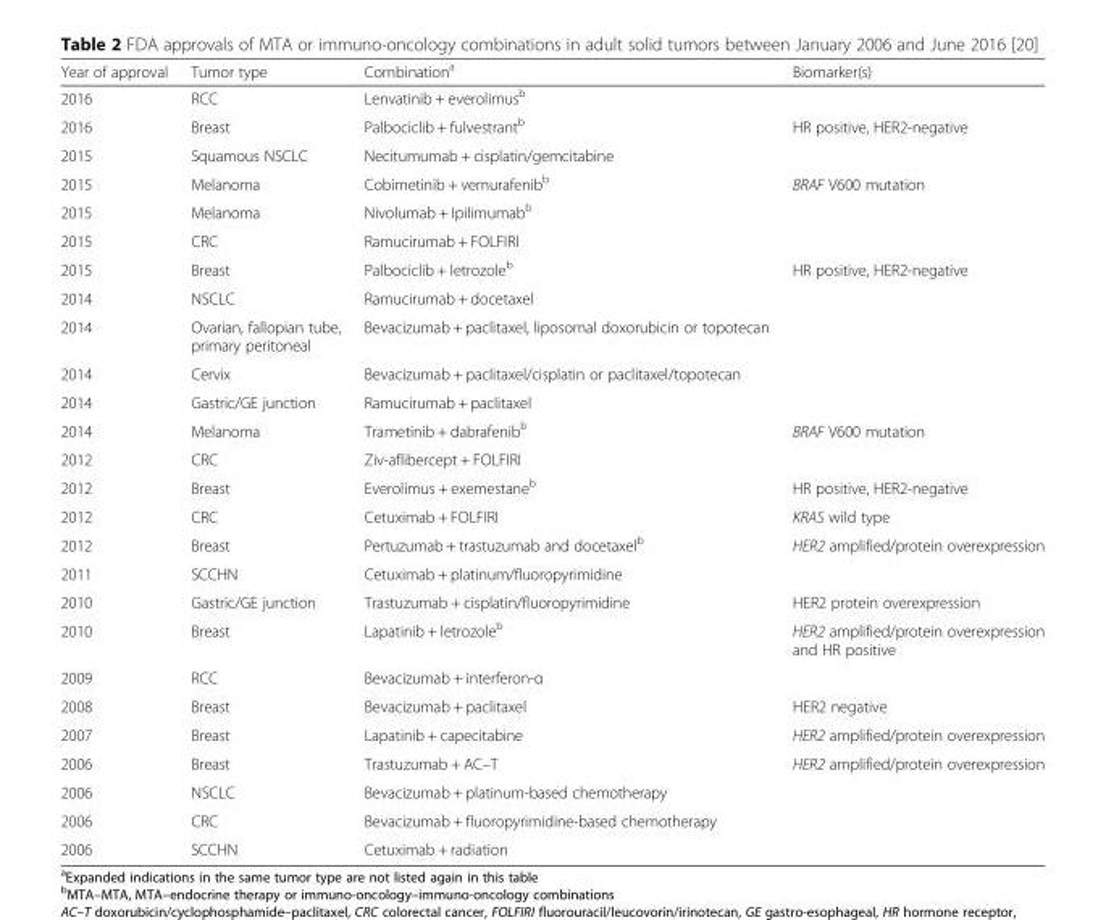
<table><thead><tr><td>Year of approval</td><td>Tumor type</td><td>Combination<sup>a</sup></td><td>Biomarker(s)</td></tr></thead><tbody><tr><td>2016</td><td>RCC</td><td>Lenvatinib + everolimus<sup>b</sup></td><td></td></tr><tr><td>2016</td><td>Breast</td><td>Palbociclib + fulvestrant<sup>b</sup></td><td>HR positive, HER2-negative</td></tr><tr><td>2015</td><td>Squamous NSCLC</td><td>Necitumumab + cisplatin/gemcitabine</td><td></td></tr><tr><td>2015</td><td>Melanoma</td><td>Cobimetinib + vemurafenib<sup>b</sup></td><td>BRAF V600 mutation</td></tr><tr><td>2015</td><td>Melanoma</td><td>Nivolumab + Ipilimumab<sup>b</sup></td><td></td></tr><tr><td>2015</td><td>CRC</td><td>Ramucirumab + FOLFIRI</td><td></td></tr><tr><td>2015</td><td>Breast</td><td>Palbociclib + letrozole<sup>b</sup></td><td>HR positive, HER2-negative</td></tr><tr><td>2014</td><td>NSCLC</td><td>Ramucirumab + docetaxel</td><td></td></tr><tr><td>2014</td><td>Ovarian, fallopian tube, primary peritoneal</td><td>Bevacizumab + paclitaxel, liposomal doxorubicin or topotecan</td><td></td></tr><tr><td>2014</td><td>Cervix</td><td>Bevacizumab + paclitaxel/cisplatin or paclitaxel/topotecan</td><td></td></tr><tr><td>2014</td><td>Gastric/GE junction</td><td>Ramucirumab + paclitaxel</td><td></td></tr><tr><td>2014</td><td>Melanoma</td><td>Trametinib + dabrafenib<sup>b</sup></td><td>BRAF V600 mutation</td></tr><tr><td>2012</td><td>CRC</td><td>Ziv-aflibercept + FOLFIRI</td><td></td></tr><tr><td>2012</td><td>Breast</td><td>Everolimus + exemestane<sup>b</sup></td><td>HR positive, HER2-negative</td></tr><tr><td>2012</td><td>CRC</td><td>Cetuximab + FOLFIRI</td><td>KRAS wild type</td></tr><tr><td>2012</td><td>Breast</td><td>Pertuzumab + trastuzumab and docetaxel<sup>b</sup></td><td>HER2 amplified/protein overexpression</td></tr><tr><td>2011</td><td>SCCHN</td><td>Cetuximab + platinum/fluoropyrimidine</td><td></td></tr><tr><td>2010</td><td>Gastric/GE junction</td><td>Trastuzumab + cisplatin/fluoropyrimidine</td><td>HER2 protein overexpression</td></tr><tr><td>2010</td><td>Breast</td><td>Lapatinib + letrozole<sup>b</sup></td><td>HER2 amplified/protein overexpression and HR positive</td></tr><tr><td>2009</td><td>RCC</td><td>Bevacizumab + interferon-α</td><td></td></tr><tr><td>2008</td><td>Breast</td><td>Bevacizumab + paclitaxel</td><td>HER2 negative</td></tr><tr><td>2007</td><td>Breast</td><td>Lapatinib + capecitabine</td><td>HER2 amplified/protein overexpression</td></tr><tr><td>2006</td><td>Breast</td><td>Trastuzumab + AC–T</td><td>HER2 amplified/protein overexpression</td></tr><tr><td>2006</td><td>NSCLC</td><td>Bevacizumab + platinum-based chemotherapy</td><td></td></tr><tr><td>2006</td><td>CRC</td><td>Bevacizumab + fluoropyrimidine-based chemotherapy</td><td></td></tr><tr><td>2006</td><td>SCCHN</td><td>Cetuximab + radiation</td><td></td></tr></tbody></table>